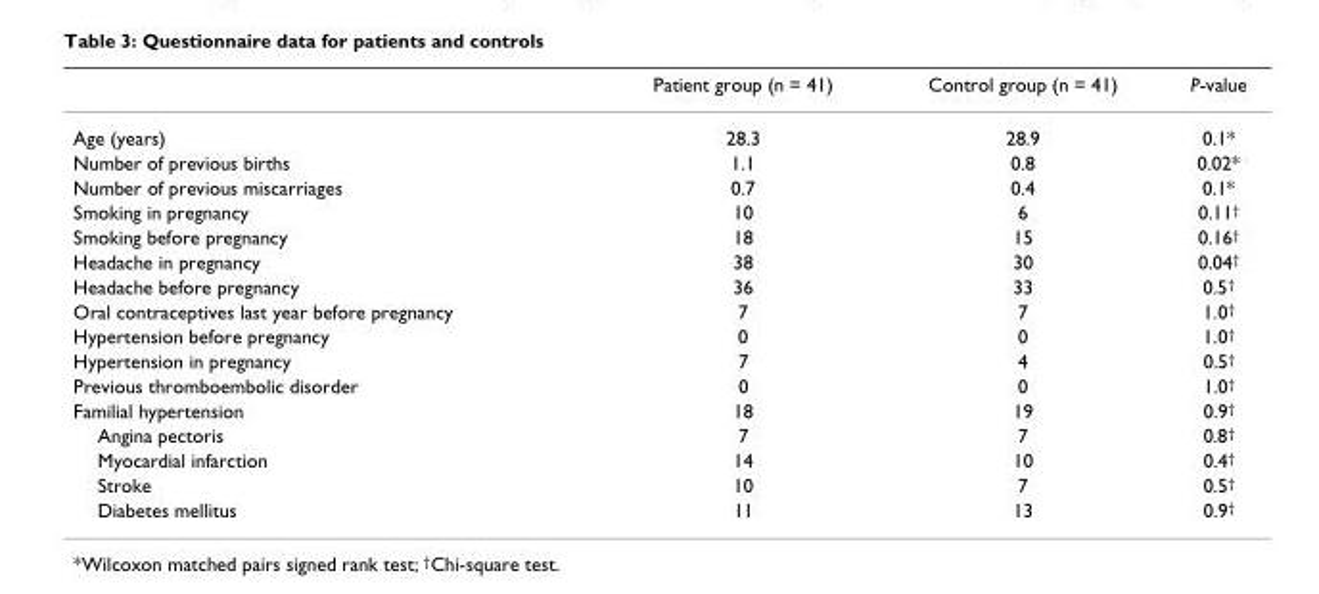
<table><thead><tr><td></td><td>Patient group (n = 41)</td><td>Control group (n = 41)</td><td>P-value</td></tr></thead><tbody><tr><td>Age (years)</td><td>28.3</td><td>28.9</td><td>0.1*</td></tr><tr><td>Number of previous births</td><td>1.1</td><td>0.8</td><td>0.02*</td></tr><tr><td>Number of previous miscarriages</td><td>0.7</td><td>0.4</td><td>0.1*</td></tr><tr><td>Smoking in pregnancy</td><td>10</td><td>6</td><td>0.11<sup>†</sup></td></tr><tr><td>Smoking before pregnancy</td><td>18</td><td>15</td><td>0.16<sup>†</sup></td></tr><tr><td>Headache in pregnancy</td><td>38</td><td>30</td><td>0.04<sup>†</sup></td></tr><tr><td>Headache before pregnancy</td><td>36</td><td>33</td><td>0.5<sup>†</sup></td></tr><tr><td>Oral contraceptives last year before pregnancy</td><td>7</td><td>7</td><td>1.0<sup>†</sup></td></tr><tr><td>Hypertension before pregnancy</td><td>0</td><td>0</td><td>1.0<sup>†</sup></td></tr><tr><td>Hypertension in pregnancy</td><td>7</td><td>4</td><td>0.5<sup>†</sup></td></tr><tr><td>Previous thromboembolic disorder</td><td>0</td><td>0</td><td>1.0<sup>†</sup></td></tr><tr><td>Familial hypertension</td><td>18</td><td>19</td><td>0.9<sup>†</sup></td></tr><tr><td>Angina pectoris</td><td>7</td><td>7</td><td>0.8<sup>†</sup></td></tr><tr><td>Myocardial infarction</td><td>14</td><td>10</td><td>0.4<sup>†</sup></td></tr><tr><td>Stroke</td><td>10</td><td>7</td><td>0.5<sup>†</sup></td></tr><tr><td>Diabetes mellitus</td><td>11</td><td>13</td><td>0.9<sup>†</sup></td></tr></tbody></table>